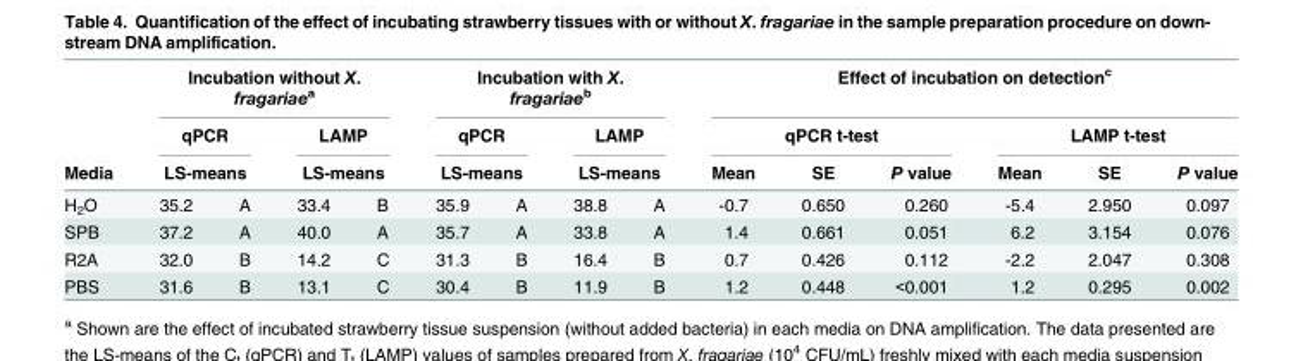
<table><thead><tr><td rowspan="4">Media H<sub>2</sub>O</td><td colspan="4">Incubation without X. fragariae<sup>a</sup></td><td colspan="4">Incubation with X. fragariae<sup>b</sup></td><td colspan="6">Effect of incubation on detection<sup>c</sup></td></tr><tr><td rowspan="2" colspan="2">qPCR LS-means</td><td rowspan="2" colspan="2">LAMP LS-means</td><td rowspan="2" colspan="2">qPCR LS-means</td><td rowspan="2" colspan="2">LAMP LS-means</td><td colspan="3">qPCR t-test</td><td colspan="3">LAMP t-test</td></tr><tr><td rowspan="2">Mean -0.7</td><td rowspan="2">SE 0.650</td><td rowspan="2">P value 0.260</td><td rowspan="2">Mean -5.4</td><td rowspan="2">SE 2.950</td><td rowspan="2">P value 0.097</td></tr><tr><td>35.2</td><td>A</td><td>33.4</td><td>B</td><td>35.9</td><td>A</td><td>38.8</td><td>A</td></tr></thead><tbody><tr><td>SPB</td><td>37.2</td><td>A</td><td>40.0</td><td>A</td><td>35.7</td><td>A</td><td>33.8</td><td>A</td><td>1.4</td><td>0.661</td><td>0.051</td><td>6.2</td><td>3.154</td><td>0.076</td></tr><tr><td>R2A</td><td>32.0</td><td>B</td><td>14.2</td><td>C</td><td>31.3</td><td>B</td><td>16.4</td><td>B</td><td>0.7</td><td>0.426</td><td>0.112</td><td>-2.2</td><td>2.047</td><td>0.308</td></tr><tr><td>PBS</td><td>31.6</td><td>B</td><td>13.1</td><td>C</td><td>30.4</td><td>B</td><td>11.9</td><td>B</td><td>1.2</td><td>0.448</td><td>&lt;0.001</td><td>1.2</td><td>0.295</td><td>0.002</td></tr></tbody></table>